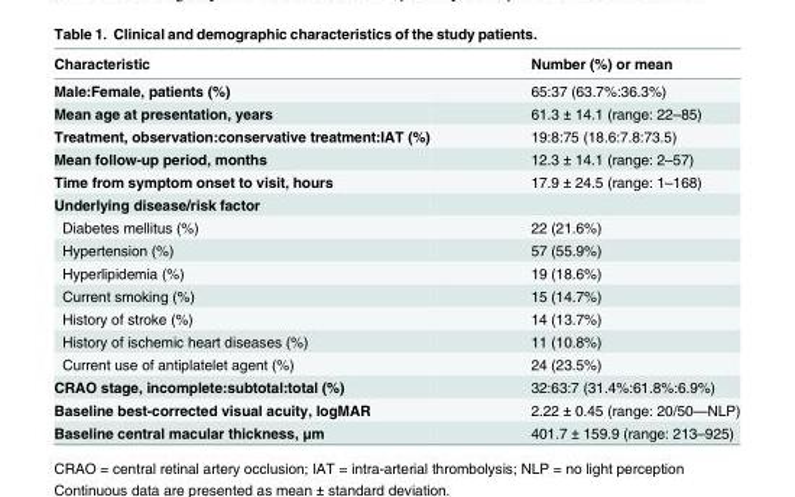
<table><thead><tr><td>Characteristic</td><td>Number (%) or mean</td></tr></thead><tbody><tr><td>Male:Female, patients (%)</td><td>65:37 (63.7%:36.3%)</td></tr><tr><td>Mean age at presentation, years</td><td>61.3 ± 14.1 (range: 22–85)</td></tr><tr><td>Treatment, observation:conservative treatment:IAT (%)</td><td>19:8:75 (18.6:7.8:73.5)</td></tr><tr><td>Mean follow-up period, months</td><td>12.3 ± 14.1 (range: 2–57)</td></tr><tr><td>Time from symptom onset to visit, hours</td><td>17.9 ± 24.5 (range: 1–168)</td></tr><tr><td colspan="2">Underlying disease/risk factor</td></tr><tr><td>Diabetes mellitus (%)</td><td>22 (21.6%)</td></tr><tr><td>Hypertension (%)</td><td>57 (55.9%)</td></tr><tr><td>Hyperlipidemia (%)</td><td>19 (18.6%)</td></tr><tr><td>Current smoking (%)</td><td>15 (14.7%)</td></tr><tr><td>History of stroke (%)</td><td>14 (13.7%)</td></tr><tr><td>History of ischemic heart diseases (%)</td><td>11 (10.8%)</td></tr><tr><td>Current use of antiplatelet agent (%)</td><td>24 (23.5%)</td></tr><tr><td>CRAO stage, incomplete:subtotal:total (%)</td><td>32:63:7 (31.4%:61.8%:6.9%)</td></tr><tr><td>Baseline best-corrected visual acuity, logMAR</td><td>2.22 ± 0.45 (range: 20/50—NLP)</td></tr><tr><td>Baseline central macular thickness, μm</td><td>401.7 ± 159.9 (range: 213–925)</td></tr></tbody></table>